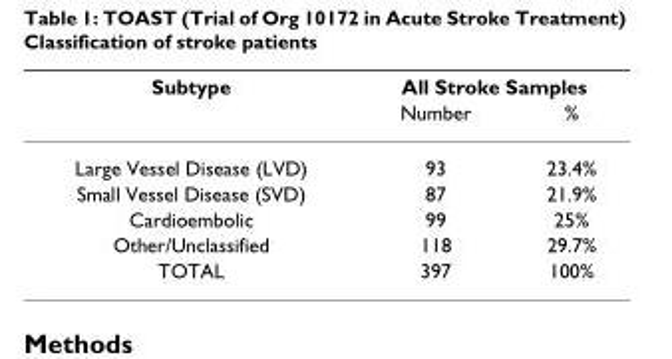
<table><thead><tr><td rowspan="2">Subtype</td><td colspan="2">All Stroke Samples</td></tr><tr><td>Number</td><td>%</td></tr></thead><tbody><tr><td>Large Vessel Disease (LVD)</td><td>93</td><td>23.4%</td></tr><tr><td>Small Vessel Disease (SVD)</td><td>87</td><td>21.9%</td></tr><tr><td>Cardioembolic</td><td>99</td><td>25%</td></tr><tr><td>Other/Unclassified</td><td>118</td><td>29.7%</td></tr><tr><td>TOTAL</td><td>397</td><td>100%</td></tr></tbody></table>